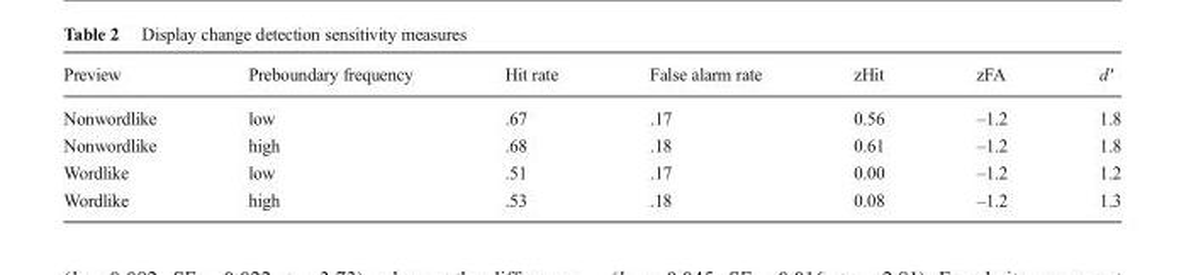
<table><thead><tr><td>Preview</td><td>Preboundary frequency</td><td>Hit rate</td><td>False alarm rate</td><td>zHit</td><td>zFA</td><td>d&#x27;</td></tr></thead><tbody><tr><td>Nonwordlike</td><td>low</td><td>.67</td><td>.17</td><td>0.56</td><td>–1.2</td><td>1.8</td></tr><tr><td>Nonwordlike</td><td>high</td><td>.68</td><td>.18</td><td>0.61</td><td>–1.2</td><td>1.8</td></tr><tr><td>Wordlike</td><td>low</td><td>.51</td><td>.17</td><td>0.00</td><td>–1.2</td><td>1.2</td></tr><tr><td>Wordlike</td><td>high</td><td>.53</td><td>.18</td><td>0.08</td><td>–1.2</td><td>1.3</td></tr></tbody></table>